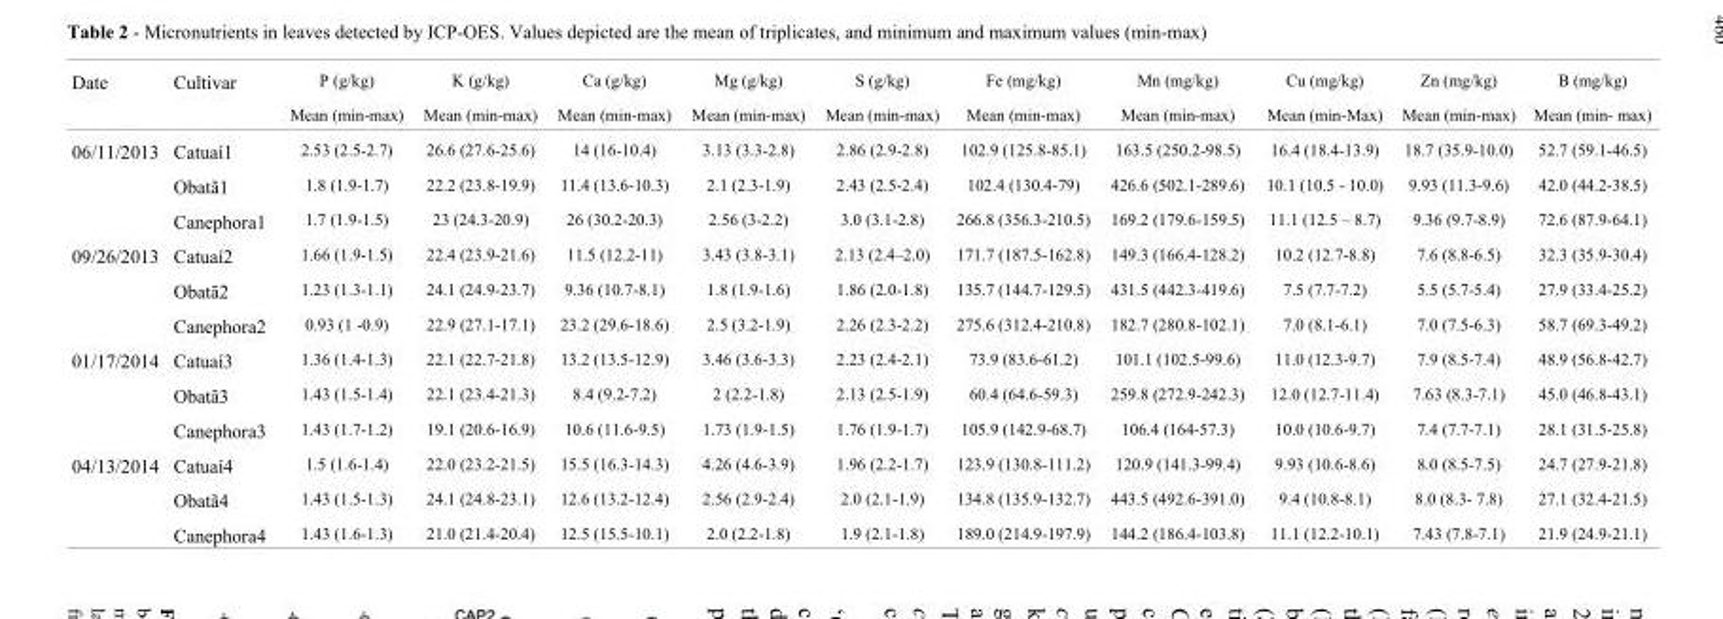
<table><thead><tr><td rowspan="2">Date</td><td rowspan="2">Cultivar</td><td rowspan="2">P (g/kg) Mean (min-max)</td><td rowspan="2">K (g/kg) Mean (min-max)</td><td rowspan="2">Ca (g/kg) Mean (min-max)</td><td rowspan="2">Mg (g/kg) Mean (min-max)</td><td rowspan="2">S (g/kg) Mean (min-max)</td><td rowspan="2">Fe (mg/kg) Mean (min-max)</td><td rowspan="2">Mn (mg/kg) Mean (min-max)</td><td rowspan="2">Cu (mg/kg) Mean (min-Max)</td><td rowspan="2">Zn (mg/kg) Mean (min-max)</td><td rowspan="2">B (mg/kg) Mean (min- max)</td></tr><tr></tr></thead><tbody><tr><td rowspan="3">06/11/2013</td><td>Catuaí1</td><td>2.53 (2.5-2.7)</td><td>26.6 (27.6-25.6)</td><td>14 (16-10.4)</td><td>3.13 (3.3-2.8)</td><td>2.86 (2.9-2.8)</td><td>102.9 (125.8-85.1)</td><td>163.5 (250.2-98.5)</td><td>16.4 (18.4-13.9)</td><td>18.7 (35.9-10.0)</td><td>52.7 (59.1-46.5)</td></tr><tr><td>Obatã1</td><td>1.8 (1.9-1.7)</td><td>22.2 (23.8-19.9)</td><td>11.4 (13.6-10.3)</td><td>2.1 (2.3-1.9)</td><td>2.43 (2.5-2.4)</td><td>102.4 (130.4-79)</td><td>426.6 (502.1-289.6)</td><td>10.1 (10.5 - 10.0)</td><td>9.93 (11.3-9.6)</td><td>42.0 (44.2-38.5)</td></tr><tr><td>Canephora1</td><td>1.7 (1.9-1.5)</td><td>23 (24.3-20.9)</td><td>26 (30.2-20.3)</td><td>2.56 (3-2.2)</td><td>3.0 (3.1-2.8)</td><td>266.8 (356.3-210.5)</td><td>169.2 (179.6-159.5)</td><td>11.1 (12.5 – 8.7)</td><td>9.36 (9.7-8.9)</td><td>72.6 (87.9-64.1)</td></tr><tr><td rowspan="3">09/26/2013</td><td>Catuaí2</td><td>1.66 (1.9-1.5)</td><td>22.4 (23.9-21.6)</td><td>11.5 (12.2-11)</td><td>3.43 (3.8-3.1)</td><td>2.13 (2.4–2.0)</td><td>171.7 (187.5-162.8)</td><td>149.3 (166.4-128.2)</td><td>10.2 (12.7-8.8)</td><td>7.6 (8.8-6.5)</td><td>32.3 (35.9-30.4)</td></tr><tr><td>Obatã2</td><td>1.23 (1.3-1.1)</td><td>24.1 (24.9-23.7)</td><td>9.36 (10.7-8.1)</td><td>1.8 (1.9-1.6)</td><td>1.86 (2.0-1.8)</td><td>135.7 (144.7-129.5)</td><td>431.5 (442.3-419.6)</td><td>7.5 (7.7-7.2)</td><td>5.5 (5.7-5.4)</td><td>27.9 (33.4-25.2)</td></tr><tr><td>Canephora2</td><td>0.93 (1 -0.9)</td><td>22.9 (27.1-17.1)</td><td>23.2 (29.6-18.6)</td><td>2.5 (3.2-1.9)</td><td>2.26 (2.3-2.2)</td><td>275.6 (312.4-210.8)</td><td>182.7 (280.8-102.1)</td><td>7.0 (8.1-6.1)</td><td>7.0 (7.5-6.3)</td><td>58.7 (69.3-49.2)</td></tr><tr><td rowspan="3">01/17/2014</td><td>Catuaí3</td><td>1.36 (1.4-1.3)</td><td>22.1 (22.7-21.8)</td><td>13.2 (13.5-12.9)</td><td>3.46 (3.6-3.3)</td><td>2.23 (2.4-2.1)</td><td>73.9 (83.6-61.2)</td><td>101.1 (102.5-99.6)</td><td>11.0 (12.3-9.7)</td><td>7.9 (8.5-7.4)</td><td>48.9 (56.8-42.7)</td></tr><tr><td>Obatã3</td><td>1.43 (1.5-1.4)</td><td>22.1 (23.4-21.3)</td><td>8.4 (9.2-7.2)</td><td>2 (2.2-1.8)</td><td>2.13 (2.5-1.9)</td><td>60.4 (64.6-59.3)</td><td>259.8 (272.9-242.3)</td><td>12.0 (12.7-11.4)</td><td>7.63 (8.3-7.1)</td><td>45.0 (46.8-43.1)</td></tr><tr><td>Canephora3</td><td>1.43 (1.7-1.2)</td><td>19.1 (20.6-16.9)</td><td>10.6 (11.6-9.5)</td><td>1.73 (1.9-1.5)</td><td>1.76 (1.9-1.7)</td><td>105.9 (142.9-68.7)</td><td>106.4 (164-57.3)</td><td>10.0 (10.6-9.7)</td><td>7.4 (7.7-7.1)</td><td>28.1 (31.5-25.8)</td></tr><tr><td rowspan="3">04/13/2014</td><td>Catuaí4</td><td>1.5 (1.6-1.4)</td><td>22.0 (23.2-21.5)</td><td>15.5 (16.3-14.3)</td><td>4.26 (4.6-3.9)</td><td>1.96 (2.2-1.7)</td><td>123.9 (130.8-111.2)</td><td>120.9 (141.3-99.4)</td><td>9.93 (10.6-8.6)</td><td>8.0 (8.5-7.5)</td><td>24.7 (27.9-21.8)</td></tr><tr><td>Obatã4</td><td>1.43 (1.5-1.3)</td><td>24.1 (24.8-23.1)</td><td>12.6 (13.2-12.4)</td><td>2.56 (2.9-2.4)</td><td>2.0 (2.1-1.9)</td><td>134.8 (135.9-132.7)</td><td>443.5 (492.6-391.0)</td><td>9.4 (10.8-8.1)</td><td>8.0 (8.3- 7.8)</td><td>27.1 (32.4-21.5)</td></tr><tr><td>Canephora4</td><td>1.43 (1.6-1.3)</td><td>21.0 (21.4-20.4)</td><td>12.5 (15.5-10.1)</td><td>2.0 (2.2-1.8)</td><td>1.9 (2.1-1.8)</td><td>189.0 (214.9-197.9)</td><td>144.2 (186.4-103.8)</td><td>11.1 (12.2-10.1)</td><td>7.43 (7.8-7.1)</td><td>21.9 (24.9-21.1)</td></tr></tbody></table>